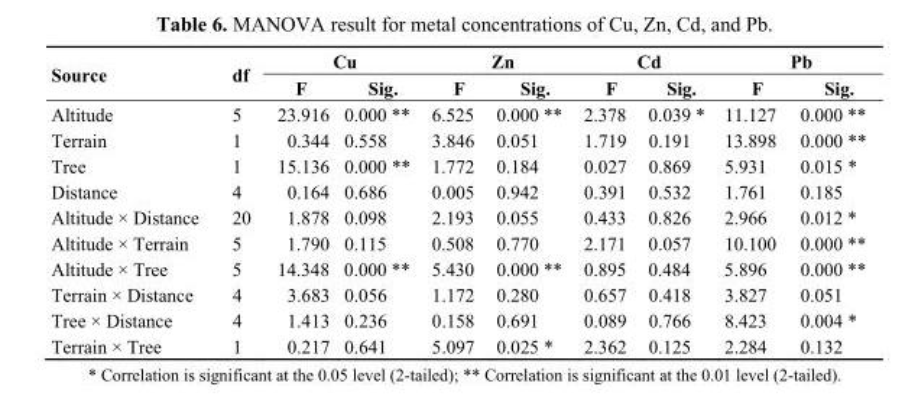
<table><thead><tr><td rowspan="2">Source</td><td rowspan="2">df</td><td colspan="2">Cu</td><td colspan="2">Zn</td><td colspan="2">Cd</td><td colspan="2">Pb</td></tr><tr><td>F</td><td>Sig.</td><td>F</td><td>Sig.</td><td>F</td><td>Sig.</td><td>F</td><td>Sig.</td></tr></thead><tbody><tr><td>Altitude</td><td>5</td><td>23.916</td><td>0.000 **</td><td>6.525</td><td>0.000 **</td><td>2.378</td><td>0.039 *</td><td>11.127</td><td>0.000 **</td></tr><tr><td>Terrain</td><td>1</td><td>0.344</td><td>0.558</td><td>3.846</td><td>0.051</td><td>1.719</td><td>0.191</td><td>13.898</td><td>0.000 **</td></tr><tr><td>Tree</td><td>1</td><td>15.136</td><td>0.000 **</td><td>1.772</td><td>0.184</td><td>0.027</td><td>0.869</td><td>5.931</td><td>0.015 *</td></tr><tr><td>Distance</td><td>4</td><td>0.164</td><td>0.686</td><td>0.005</td><td>0.942</td><td>0.391</td><td>0.532</td><td>1.761</td><td>0.185</td></tr><tr><td>Altitude × Distance</td><td>20</td><td>1.878</td><td>0.098</td><td>2.193</td><td>0.055</td><td>0.433</td><td>0.826</td><td>2.966</td><td>0.012 *</td></tr><tr><td>Altitude × Terrain</td><td>5</td><td>1.790</td><td>0.115</td><td>0.508</td><td>0.770</td><td>2.171</td><td>0.057</td><td>10.100</td><td>0.000 **</td></tr><tr><td>Altitude × Tree</td><td>5</td><td>14.348</td><td>0.000 **</td><td>5.430</td><td>0.000 **</td><td>0.895</td><td>0.484</td><td>5.896</td><td>0.000 **</td></tr><tr><td>Terrain × Distance</td><td>4</td><td>3.683</td><td>0.056</td><td>1.172</td><td>0.280</td><td>0.657</td><td>0.418</td><td>3.827</td><td>0.051</td></tr><tr><td>Tree × Distance</td><td>4</td><td>1.413</td><td>0.236</td><td>0.158</td><td>0.691</td><td>0.089</td><td>0.766</td><td>8.423</td><td>0.004 *</td></tr><tr><td>Terrain × Tree</td><td>1</td><td>0.217</td><td>0.641</td><td>5.097</td><td>0.025 *</td><td>2.362</td><td>0.125</td><td>2.284</td><td>0.132</td></tr></tbody></table>